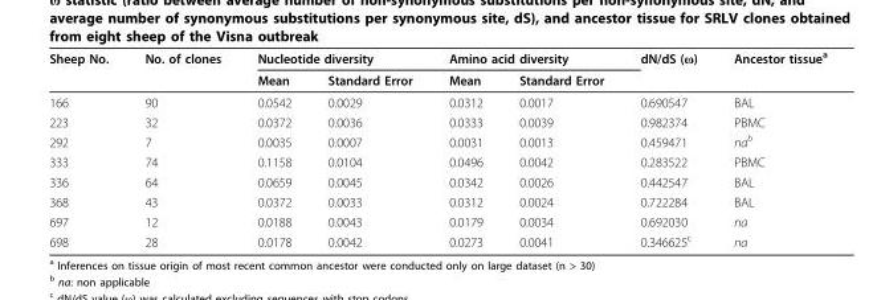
<table><thead><tr><td rowspan="2">Sheep No.</td><td rowspan="2">No. of clones</td><td colspan="2">Nucleotide diversity</td><td colspan="2">Amino acid diversity</td><td rowspan="2">dN/dS (ω)</td><td rowspan="2">Ancestor tissue<sup>a</sup></td></tr><tr><td>Mean</td><td>Standard Error</td><td>Mean</td><td>Standard Error</td></tr></thead><tbody><tr><td>166</td><td>90</td><td>0.0542</td><td>0.0029</td><td>0.0312</td><td>0.0017</td><td>0.690547</td><td>BAL</td></tr><tr><td>223</td><td>32</td><td>0.0372</td><td>0.0036</td><td>0.0333</td><td>0.0039</td><td>0.982374</td><td>PBMC</td></tr><tr><td>292</td><td>7</td><td>0.0035</td><td>0.0007</td><td>0.0031</td><td>0.0013</td><td>0.459471</td><td>na<sup>b</sup></td></tr><tr><td>333</td><td>74</td><td>0.1158</td><td>0.0104</td><td>0.0496</td><td>0.0042</td><td>0.283522</td><td>PBMC</td></tr><tr><td>336</td><td>64</td><td>0.0659</td><td>0.0045</td><td>0.0342</td><td>0.0026</td><td>0.442547</td><td>BAL</td></tr><tr><td>368</td><td>43</td><td>0.0372</td><td>0.0033</td><td>0.0312</td><td>0.0024</td><td>0.722284</td><td>BAL</td></tr><tr><td>697</td><td>12</td><td>0.0188</td><td>0.0043</td><td>0.0179</td><td>0.0034</td><td>0.692030</td><td>na</td></tr><tr><td>698</td><td>28</td><td>0.0178</td><td>0.0042</td><td>0.0273</td><td>0.0041</td><td>0.346625<sup>c</sup></td><td>na</td></tr></tbody></table>